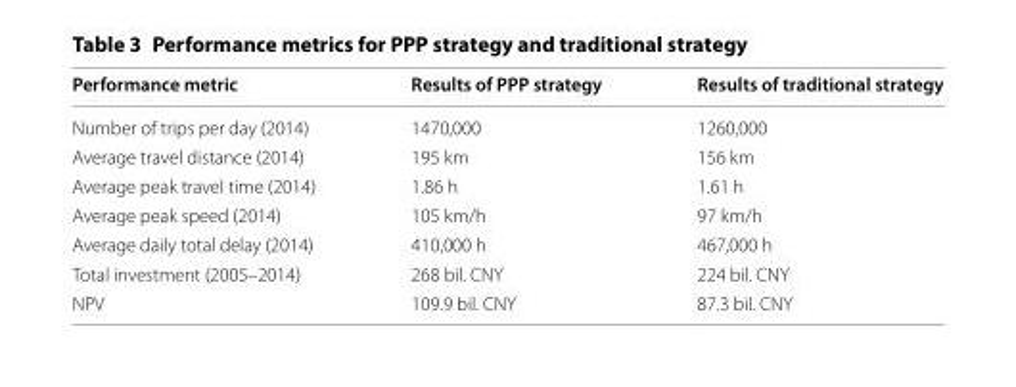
<table><thead><tr><td>Performance metric</td><td>Results of PPP strategy</td><td>Results of traditional strategy</td></tr></thead><tbody><tr><td>Number of trips per day (2014)</td><td>1470,000</td><td>1260,000</td></tr><tr><td>Average travel distance (2014)</td><td>195 km</td><td>156 km</td></tr><tr><td>Average peak travel time (2014)</td><td>1.86 h</td><td>1.61 h</td></tr><tr><td>Average peak speed (2014)</td><td>105 km/h</td><td>97 km/h</td></tr><tr><td>Average daily total delay (2014)</td><td>410,000 h</td><td>467,000 h</td></tr><tr><td>Total investment (2005–2014)</td><td>268 bil. CNY</td><td>224 bil. CNY</td></tr><tr><td>NPV</td><td>109.9 bil. CNY</td><td>87.3 bil. CNY</td></tr></tbody></table>